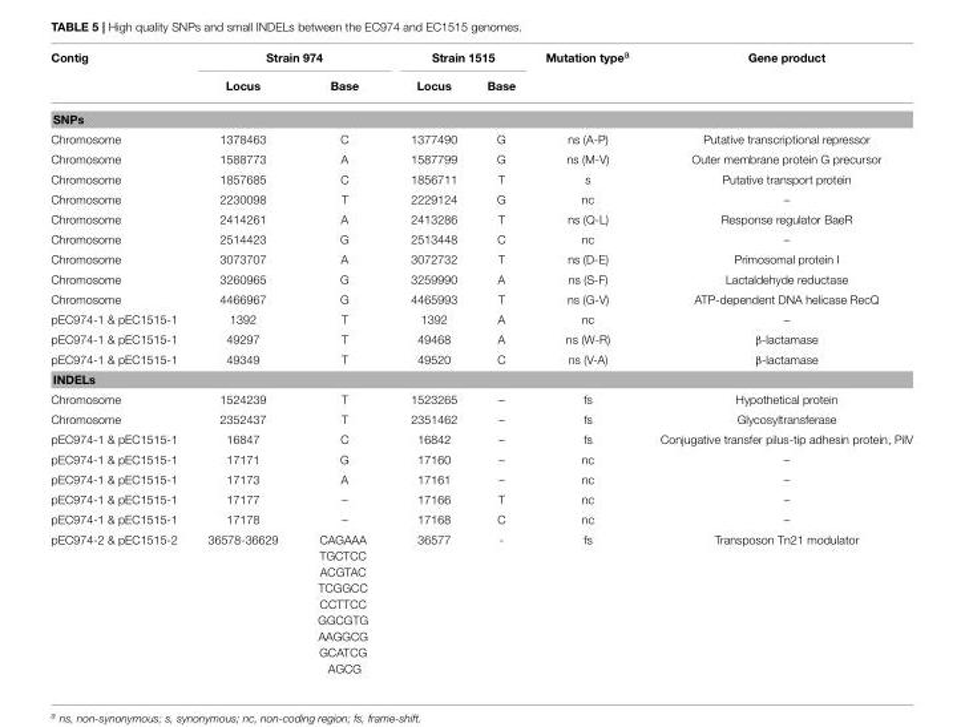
<table><thead><tr><td rowspan="2">Contig</td><td colspan="2">Strain 974</td><td colspan="2">Strain 1515</td><td rowspan="2">Mutation type<sup>a</sup></td><td rowspan="2">Gene product</td></tr><tr><td>Locus</td><td>Base</td><td>Locus</td><td>Base</td></tr></thead><tbody><tr><td colspan="7">SNPs</td></tr><tr><td>Chromosome</td><td>1378463</td><td>C</td><td>1377490</td><td>G</td><td>ns (A-P)</td><td>Putative transcriptional repressor</td></tr><tr><td>Chromosome</td><td>1588773</td><td>A</td><td>1587799</td><td>G</td><td>ns (M-V)</td><td>Outer membrane protein G precursor</td></tr><tr><td>Chromosome</td><td>1857685</td><td>C</td><td>1856711</td><td>T</td><td>s</td><td>Putative transport protein</td></tr><tr><td>Chromosome</td><td>2230098</td><td>T</td><td>2229124</td><td>G</td><td>nc</td><td>–</td></tr><tr><td>Chromosome</td><td>2414261</td><td>A</td><td>2413286</td><td>T</td><td>ns (Q-L)</td><td>Response regulator BaeR</td></tr><tr><td>Chromosome</td><td>2514423</td><td>G</td><td>2513448</td><td>C</td><td>nc</td><td>–</td></tr><tr><td>Chromosome</td><td>3073707</td><td>A</td><td>3072732</td><td>T</td><td>ns (D-E)</td><td>Primosomal protein I</td></tr><tr><td>Chromosome</td><td>3260965</td><td>G</td><td>3259990</td><td>A</td><td>ns (S-F)</td><td>Lactaldehyde reductase</td></tr><tr><td>Chromosome</td><td>4466967</td><td>G</td><td>4465993</td><td>T</td><td>ns (G-V)</td><td>ATP-dependent DNA helicase RecQ</td></tr><tr><td>pEC974-1 &amp; pEC1515-1</td><td>1392</td><td>T</td><td>1392</td><td>A</td><td>nc</td><td>–</td></tr><tr><td>pEC974-1 &amp; pEC1515-1</td><td>49297</td><td>T</td><td>49468</td><td>A</td><td>ns (W-R)</td><td>β-lactamase</td></tr><tr><td>pEC974-1 &amp; pEC1515-1</td><td>49349</td><td>T</td><td>49520</td><td>C</td><td>ns (V-A)</td><td>β-lactamase</td></tr><tr><td colspan="7">INDELs</td></tr><tr><td>Chromosome</td><td>1524239</td><td>T</td><td>1523265</td><td>–</td><td>fs</td><td>Hypothetical protein</td></tr><tr><td>Chromosome</td><td>2352437</td><td>T</td><td>2351462</td><td>–</td><td>fs</td><td>Glycosyltransferase</td></tr><tr><td>pEC974-1 &amp; pEC1515-1</td><td>16847</td><td>C</td><td>16842</td><td>–</td><td>fs</td><td>Conjugative transfer pilus-tip adhesin protein, PilV</td></tr><tr><td>pEC974-1 &amp; pEC1515-1</td><td>17171</td><td>G</td><td>17160</td><td>–</td><td>nc</td><td>–</td></tr><tr><td>pEC974-1 &amp; pEC1515-1</td><td>17173</td><td>A</td><td>17161</td><td>–</td><td>nc</td><td>–</td></tr><tr><td>pEC974-1 &amp; pEC1515-1</td><td>17177</td><td>–</td><td>17166</td><td>T</td><td>nc</td><td>–</td></tr><tr><td>pEC974-1 &amp; pEC1515-1</td><td>17178</td><td>–</td><td>17168</td><td>C</td><td>nc</td><td>–</td></tr><tr><td>pEC974-2 &amp; pEC1515-2</td><td>36578-36629</td><td>CAGAAA TGCTCC ACGTAC TCGGCC CCTTCC GGCGTG AAGGCG GCATCG AGCG</td><td>36577</td><td>-</td><td>fs</td><td>Transposon Tn21 modulator</td></tr></tbody></table>